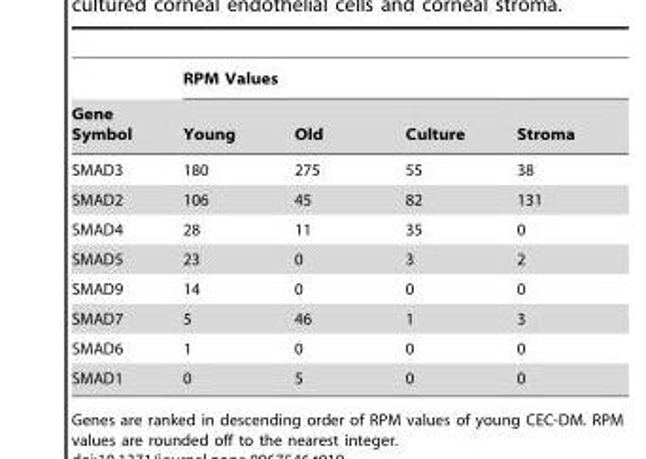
<table><thead><tr><td rowspan="2">Gene Symbol</td><td colspan="4">RPM Values</td></tr><tr><td>Young</td><td>Old</td><td>Culture</td><td>Stroma</td></tr></thead><tbody><tr><td>SMAD3</td><td>180</td><td>275</td><td>55</td><td>38</td></tr><tr><td>SMAD2</td><td>106</td><td>45</td><td>82</td><td>131</td></tr><tr><td>SMAD4</td><td>28</td><td>11</td><td>35</td><td>0</td></tr><tr><td>SMAD5</td><td>23</td><td>0</td><td>3</td><td>2</td></tr><tr><td>SMAD9</td><td>14</td><td>0</td><td>0</td><td>0</td></tr><tr><td>SMAD7</td><td>5</td><td>46</td><td>1</td><td>3</td></tr><tr><td>SMAD6</td><td>1</td><td>0</td><td>0</td><td>0</td></tr><tr><td>SMAD1</td><td>0</td><td>5</td><td>0</td><td>0</td></tr></tbody></table>